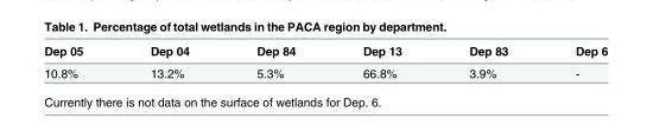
<table><thead><tr><td>Dep 05</td><td>Dep 04</td><td>Dep 84</td><td>Dep 13</td><td>Dep 83</td><td>Dep 6</td></tr></thead><tbody><tr><td>10.8%</td><td>13.2%</td><td>5.3%</td><td>66.8%</td><td>3.9%</td><td>-</td></tr></tbody></table>